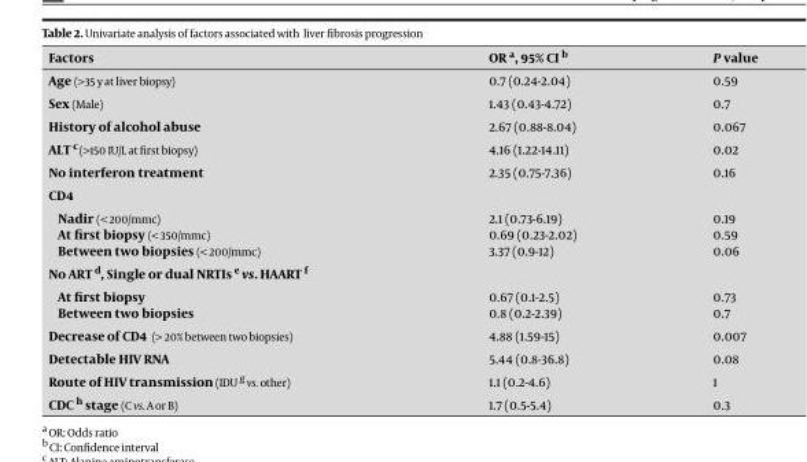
<table><thead><tr><td>Factors</td><td>OR a, 95% CI b</td><td>P value</td></tr></thead><tbody><tr><td>Age (&gt;35 y at liver biopsy)</td><td>0.7 (0.24-2.04)</td><td>0.59</td></tr><tr><td>Sex (Male)</td><td>1.43 (0.43-4.72)</td><td>0.7</td></tr><tr><td>History of alcohol abuse</td><td>2.67 (0.88-8.04)</td><td>0.067</td></tr><tr><td>ALT c (&gt;150 IU/L at first biopsy)</td><td>4.16 (1.22-14.11)</td><td>0.02</td></tr><tr><td>No interferon treatment</td><td>2.35 (0.75-7.36)</td><td>0.16</td></tr><tr><td colspan="3">CD4</td></tr><tr><td>Nadir (&lt; 200/mmc)</td><td>2.1 (0.73-6.19)</td><td>0.19</td></tr><tr><td>At first biopsy (&lt; 350/mmc)</td><td>0.69 (0.23-2.02)</td><td>0.59</td></tr><tr><td>Between two biopsies (&lt; 200/mmc)</td><td>3.37 (0.9-12)</td><td>0.06</td></tr><tr><td colspan="3">No ART d, Single or dual NRTIs e vs. HAART f</td></tr><tr><td>At first biopsy</td><td>0.67 (0.1-2.5)</td><td>0.73</td></tr><tr><td>Between two biopsies</td><td>0.8 (0.2-2.39)</td><td>0.7</td></tr><tr><td>Decrease of CD4 (&gt; 20% between two biopsies)</td><td>4.88 (1.59-15)</td><td>0.007</td></tr><tr><td>Detectable HIV RNA</td><td>5.44 (0.8-36.8)</td><td>0.08</td></tr><tr><td>Route of HIV transmission (IDU g vs. other)</td><td>1.1 (0.2-4.6)</td><td>1</td></tr><tr><td>CDC h stage (C vs. A or B)</td><td>1.7 (0.5-5.4)</td><td>0.3</td></tr></tbody></table>